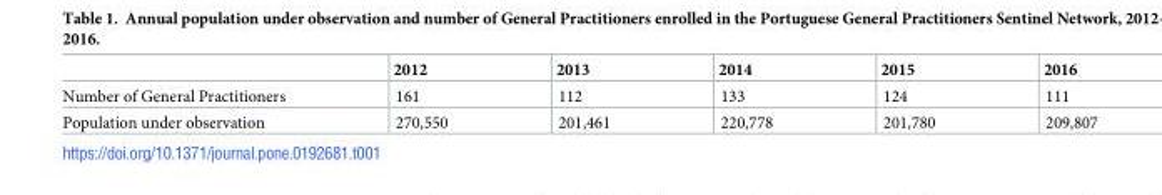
<table><thead><tr><td></td><td>2012</td><td>2013</td><td>2014</td><td>2015</td><td>2016</td></tr></thead><tbody><tr><td>Number of General Practitioners</td><td>161</td><td>112</td><td>133</td><td>124</td><td>111</td></tr><tr><td>Population under observation</td><td>270,550</td><td>201,461</td><td>220,778</td><td>201,780</td><td>209,807</td></tr></tbody></table>